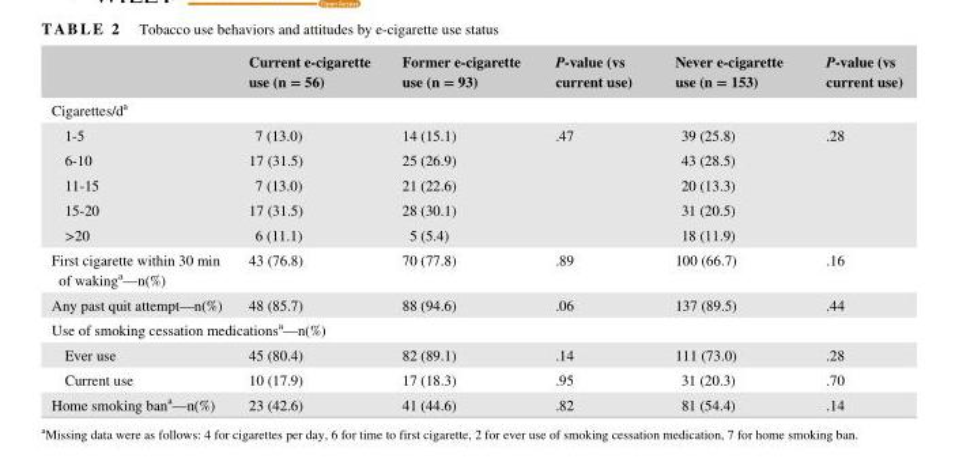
<table><thead><tr><td></td><td>Current e- cigarette use (n = 56)</td><td>Former e- cigarette use (n = 93)</td><td>P- value (vs current use)</td><td>Never e- cigarette use (n = 153)</td><td>P- value (vs current use)</td></tr></thead><tbody><tr><td colspan="6">Cigarettes/d<sup>a</sup></td></tr><tr><td>1- 5</td><td>7 (13.0)</td><td>14 (15.1)</td><td rowspan="5">.47</td><td>39 (25.8)</td><td rowspan="5">.28</td></tr><tr><td>6- 10</td><td>17 (31.5)</td><td>25 (26.9)</td><td>43 (28.5)</td></tr><tr><td>11- 15</td><td>7 (13.0)</td><td>21 (22.6)</td><td>20 (13.3)</td></tr><tr><td>15- 20</td><td>17 (31.5)</td><td>28 (30.1)</td><td>31 (20.5)</td></tr><tr><td>&gt;20</td><td>6 (11.1)</td><td>5 (5.4)</td><td>18 (11.9)</td></tr><tr><td>First cigarette within 30 min of waking<sup>a</sup>—n(%)</td><td>43 (76.8)</td><td>70 (77.8)</td><td>.89</td><td>100 (66.7)</td><td>.16</td></tr><tr><td>Any past quit attempt—n(%)</td><td>48 (85.7)</td><td>88 (94.6)</td><td>.06</td><td>137 (89.5)</td><td>.44</td></tr><tr><td colspan="6">Use of smoking cessation medications<sup>a</sup>—n(%)</td></tr><tr><td>Ever use</td><td>45 (80.4)</td><td>82 (89.1)</td><td>.14</td><td>111 (73.0)</td><td>.28</td></tr><tr><td>Current use</td><td>10 (17.9)</td><td>17 (18.3)</td><td>.95</td><td>31 (20.3)</td><td>.70</td></tr><tr><td>Home smoking ban<sup>a</sup>—n(%)</td><td>23 (42.6)</td><td>41 (44.6)</td><td>.82</td><td>81 (54.4)</td><td>.14</td></tr></tbody></table>